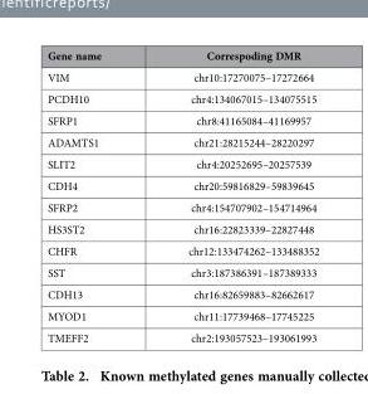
<table><thead><tr><td>Gene name</td><td>Correspoding DMR</td></tr></thead><tbody><tr><td>VIM</td><td>chr10:17270075–17272664</td></tr><tr><td>PCDH10</td><td>chr4:134067015–134075515</td></tr><tr><td>SFRP1</td><td>chr8:41165084–41169957</td></tr><tr><td>ADAMTS1</td><td>chr21:28215244–28220297</td></tr><tr><td>SLIT2</td><td>chr4:20252695–20257539</td></tr><tr><td>CDH4</td><td>chr20:59816829–59839645</td></tr><tr><td>SFRP2</td><td>chr4:154707902–154714964</td></tr><tr><td>HS3ST2</td><td>chr16:22823339–22827448</td></tr><tr><td>CHFR</td><td>chr12:133474262–133488352</td></tr><tr><td>SST</td><td>chr3:187386391–187389333</td></tr><tr><td>CDH13</td><td>chr16:82659883–82662617</td></tr><tr><td>MYOD1</td><td>chr11:17739468–17745225</td></tr><tr><td>TMEFF2</td><td>chr2:193057523–193061993</td></tr></tbody></table>